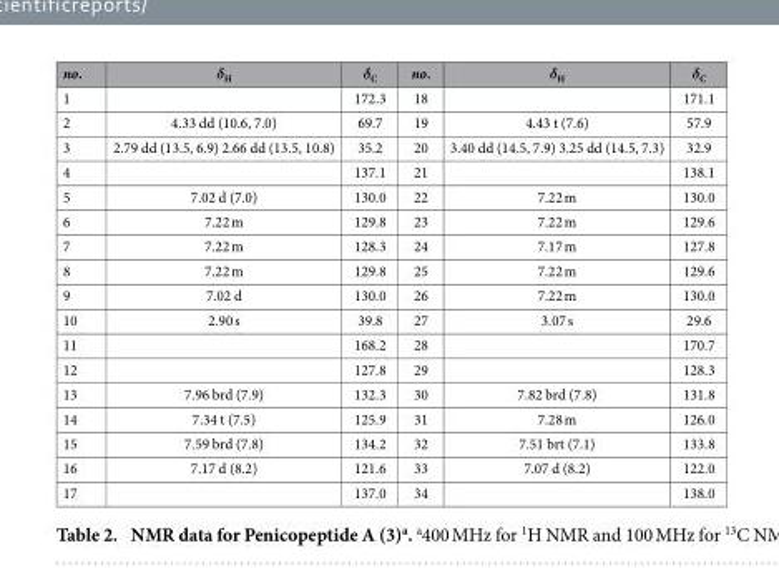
<table><thead><tr><td>no.</td><td>δ<sub>H</sub></td><td>δ<sub>C</sub></td><td>no.</td><td>δ<sub>H</sub></td><td>δ<sub>C</sub></td></tr></thead><tbody><tr><td>1</td><td></td><td>172.3</td><td>18</td><td></td><td>171.1</td></tr><tr><td>2</td><td>4.33 dd (10.6, 7.0)</td><td>69.7</td><td>19</td><td>4.43 t (7.6)</td><td>57.9</td></tr><tr><td>3</td><td>2.79 dd (13.5, 6.9) 2.66 dd (13.5, 10.8)</td><td>35.2</td><td>20</td><td>3.40 dd (14.5, 7.9) 3.25 dd (14.5, 7.3)</td><td>32.9</td></tr><tr><td>4</td><td></td><td>137.1</td><td>21</td><td></td><td>138.1</td></tr><tr><td>5</td><td>7.02 d (7.0)</td><td>130.0</td><td>22</td><td>7.22 m</td><td>130.0</td></tr><tr><td>6</td><td>7.22 m</td><td>129.8</td><td>23</td><td>7.22 m</td><td>129.6</td></tr><tr><td>7</td><td>7.22 m</td><td>128.3</td><td>24</td><td>7.17 m</td><td>127.8</td></tr><tr><td>8</td><td>7.22 m</td><td>129.8</td><td>25</td><td>7.22 m</td><td>129.6</td></tr><tr><td>9</td><td>7.02 d</td><td>130.0</td><td>26</td><td>7.22 m</td><td>130.0</td></tr><tr><td>10</td><td>2.90 s</td><td>39.8</td><td>27</td><td>3.07 s</td><td>29.6</td></tr><tr><td>11</td><td></td><td>168.2</td><td>28</td><td></td><td>170.7</td></tr><tr><td>12</td><td></td><td>127.8</td><td>29</td><td></td><td>128.3</td></tr><tr><td>13</td><td>7.96 brd (7.9)</td><td>132.3</td><td>30</td><td>7.82 brd (7.8)</td><td>131.8</td></tr><tr><td>14</td><td>7.34 t (7.5)</td><td>125.9</td><td>31</td><td>7.28 m</td><td>126.0</td></tr><tr><td>15</td><td>7.59 brd (7.8)</td><td>134.2</td><td>32</td><td>7.51 brt (7.1)</td><td>133.8</td></tr><tr><td>16</td><td>7.17 d (8.2)</td><td>121.6</td><td>33</td><td>7.07 d (8.2)</td><td>122.0</td></tr><tr><td>17</td><td></td><td>137.0</td><td>34</td><td></td><td>138.0</td></tr></tbody></table>